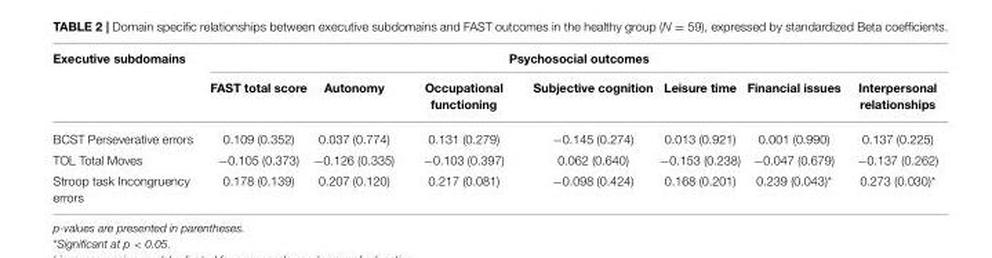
<table><thead><tr><td rowspan="2">Executive subdomains</td><td colspan="7">Psychosocial outcomes</td></tr><tr><td>FAST total score</td><td>Autonomy</td><td>Occupational functioning</td><td>Subjective cognition</td><td>Leisure time</td><td>Financial issues</td><td>Interpersonal relationships</td></tr></thead><tbody><tr><td>BCST Perseverative errors</td><td>0.109 (0.352)</td><td>0.037 (0.774)</td><td>0.131 (0.279)</td><td>−0.145 (0.274)</td><td>0.013 (0.921)</td><td>0.001 (0.990)</td><td>0.137 (0.225)</td></tr><tr><td>TOL Total Moves</td><td>−0.105 (0.373)</td><td>−0.126 (0.335)</td><td>−0.103 (0.397)</td><td>0.062 (0.640)</td><td>−0.153 (0.238)</td><td>−0.047 (0.679)</td><td>−0.137 (0.262)</td></tr><tr><td>Stroop task Incongruency errors</td><td>0.178 (0.139)</td><td>0.207 (0.120)</td><td>0.217 (0.081)</td><td>−0.098 (0.424)</td><td>0.168 (0.201)</td><td>0.239 (0.043)*</td><td>0.273 (0.030)*</td></tr></tbody></table>